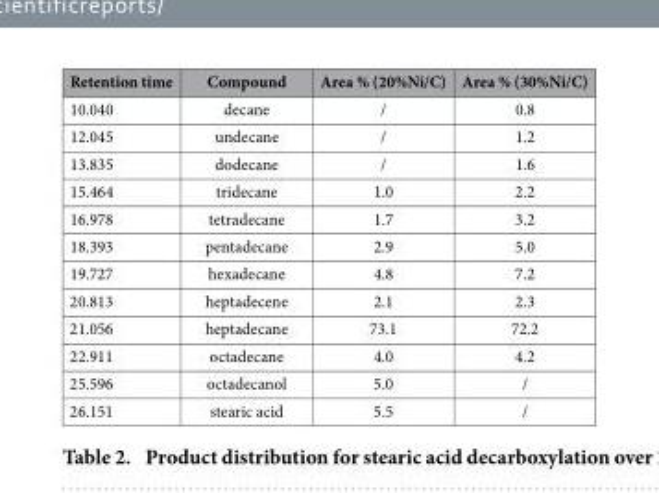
<table><thead><tr><td>Retention time</td><td>Compound</td><td>Area % (20%Ni/C)</td><td>Area % (30%Ni/C)</td></tr></thead><tbody><tr><td>10.040</td><td>decane</td><td>/</td><td>0.8</td></tr><tr><td>12.045</td><td>undecane</td><td>/</td><td>1.2</td></tr><tr><td>13.835</td><td>dodecane</td><td>/</td><td>1.6</td></tr><tr><td>15.464</td><td>tridecane</td><td>1.0</td><td>2.2</td></tr><tr><td>16.978</td><td>tetradecane</td><td>1.7</td><td>3.2</td></tr><tr><td>18.393</td><td>pentadecane</td><td>2.9</td><td>5.0</td></tr><tr><td>19.727</td><td>hexadecane</td><td>4.8</td><td>7.2</td></tr><tr><td>20.813</td><td>heptadecene</td><td>2.1</td><td>2.3</td></tr><tr><td>21.056</td><td>heptadecane</td><td>73.1</td><td>72.2</td></tr><tr><td>22.911</td><td>octadecane</td><td>4.0</td><td>4.2</td></tr><tr><td>25.596</td><td>octadecanol</td><td>5.0</td><td>/</td></tr><tr><td>26.151</td><td>stearic acid</td><td>5.5</td><td>/</td></tr></tbody></table>